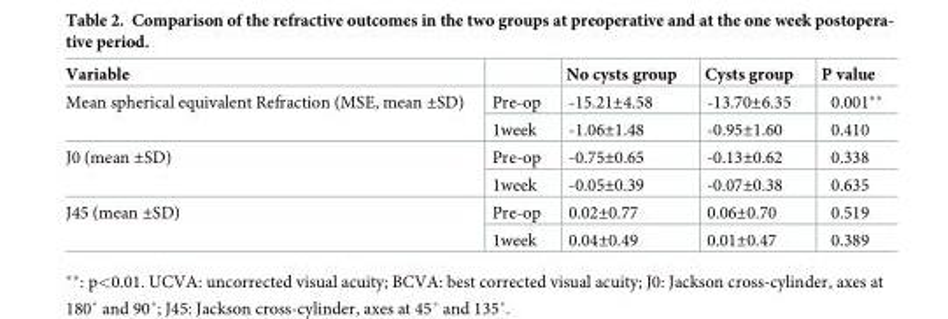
<table><thead><tr><td>Variable</td><td></td><td>No cysts group</td><td>Cysts group</td><td>P value</td></tr></thead><tbody><tr><td rowspan="2">Mean spherical equivalent Refraction (MSE, mean ±SD)</td><td>Pre-op</td><td>-15.21±4.58</td><td>-13.70±6.35</td><td>0.001**</td></tr><tr><td>1week</td><td>-1.06±1.48</td><td>-0.95±1.60</td><td>0.410</td></tr><tr><td rowspan="2">J0 (mean ±SD)</td><td>Pre-op</td><td>-0.75±0.65</td><td>-0.13±0.62</td><td>0.338</td></tr><tr><td>1week</td><td>-0.05±0.39</td><td>-0.07±0.38</td><td>0.635</td></tr><tr><td rowspan="2">J45 (mean ±SD)</td><td>Pre-op</td><td>0.02±0.77</td><td>0.06±0.70</td><td>0.519</td></tr><tr><td>1week</td><td>0.04±0.49</td><td>0.01±0.47</td><td>0.389</td></tr></tbody></table>